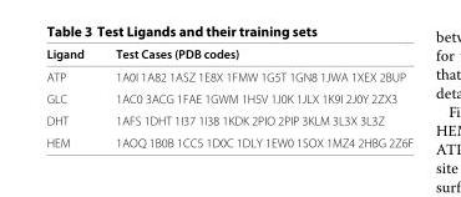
<table><thead><tr><td>Ligand</td><td>Test Cases (PDB codes)</td></tr></thead><tbody><tr><td>ATP</td><td>1A0I 1A82 1ASZ 1E8X 1FMW 1G5T 1GN8 1JWA 1XEX 2BUP</td></tr><tr><td>GLC</td><td>1AC0 3ACG 1FAE 1GWM 1H5V 1J0K 1JLX 1K9I 2J0Y 2ZX3</td></tr><tr><td>DHT</td><td>1AFS 1DHT 1I37 1I38 1KDK 2PIO 2PIP 3KLM 3L3X 3L3Z</td></tr><tr><td>HEM</td><td>1AOQ 1B0B 1CC5 1D0C 1DLY 1EW0 1SOX 1MZ4 2HBG 2Z6F</td></tr></tbody></table>